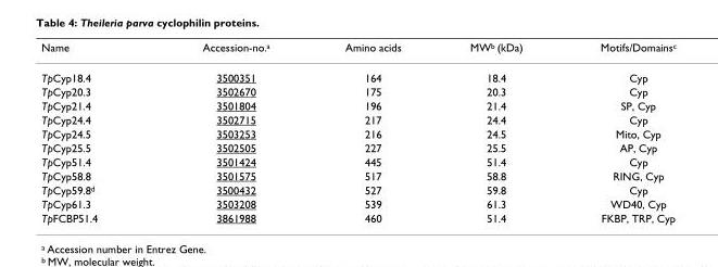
<table><thead><tr><td>Name</td><td>Accession-no.<sup>a</sup></td><td>Amino acids</td><td>MW<sup>b</sup> (kDa)</td><td>Motifs/Domains<sup>c</sup></td></tr></thead><tbody><tr><td>TpCyp18.4</td><td>3500351</td><td>164</td><td>18.4</td><td>Cyp</td></tr><tr><td>TpCyp20.3</td><td>3502670</td><td>175</td><td>20.3</td><td>Cyp</td></tr><tr><td>TpCyp21.4</td><td>3501804</td><td>196</td><td>21.4</td><td>SP, Cyp</td></tr><tr><td>TpCyp24.4</td><td>3502715</td><td>217</td><td>24.4</td><td>Cyp</td></tr><tr><td>TpCyp24.5</td><td>3503253</td><td>216</td><td>24.5</td><td>Mito, Cyp</td></tr><tr><td>TpCyp25.5</td><td>3502505</td><td>227</td><td>25.5</td><td>AP, Cyp</td></tr><tr><td>TpCyp51.4</td><td>3501424</td><td>445</td><td>51.4</td><td>Cyp</td></tr><tr><td>TpCyp58.8</td><td>3501575</td><td>517</td><td>58.8</td><td>RING, Cyp</td></tr><tr><td>TpCyp59.8<sup>d</sup></td><td>3500432</td><td>527</td><td>59.8</td><td>Cyp</td></tr><tr><td>TpCyp61.3</td><td>3503208</td><td>539</td><td>61.3</td><td>WD40, Cyp</td></tr><tr><td>TpFCBP51.4</td><td>3861988</td><td>460</td><td>51.4</td><td>FKBP, TRP, Cyp</td></tr></tbody></table>